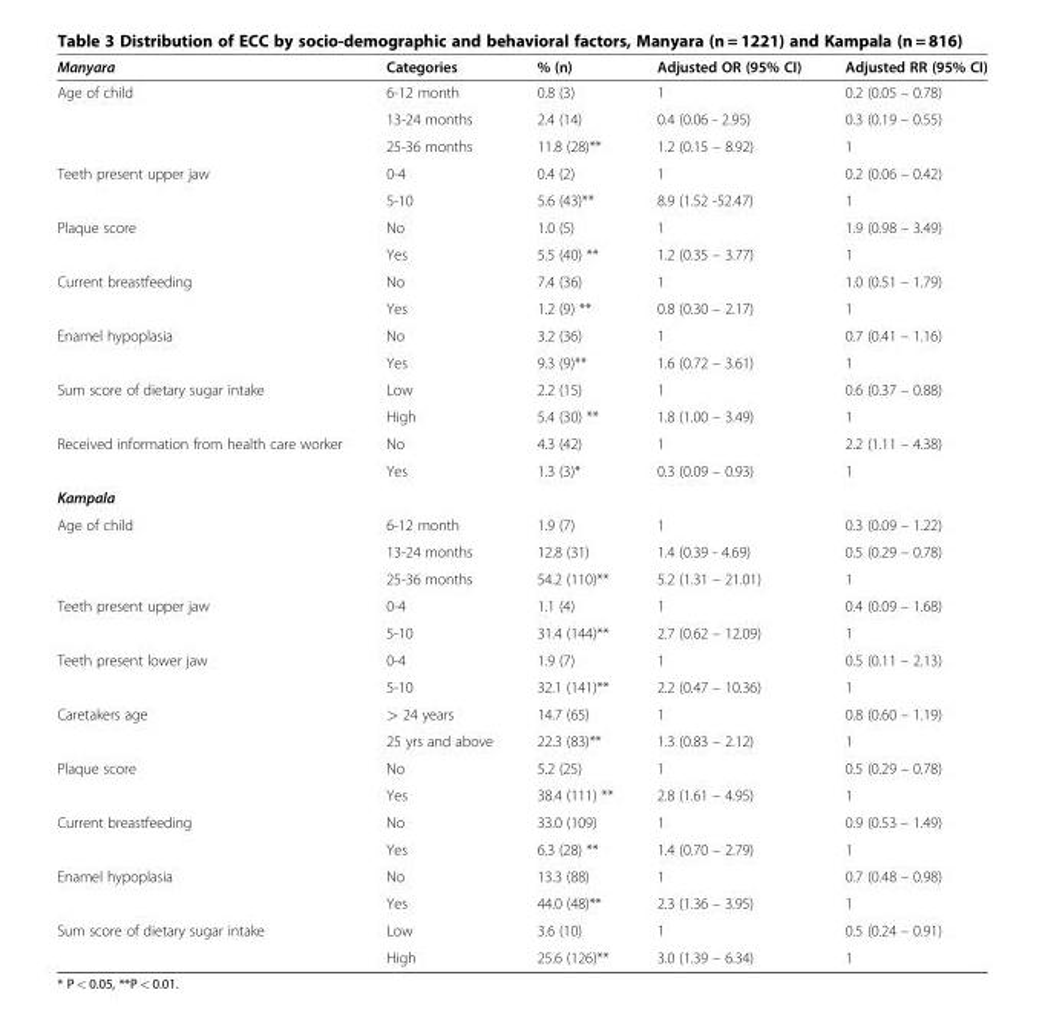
<table><thead><tr><td>Manyara</td><td>Categories</td><td>% (n)</td><td>Adjusted OR (95% CI)</td><td>Adjusted RR (95% CI)</td></tr></thead><tbody><tr><td rowspan="3">Age of child</td><td>6-12 month</td><td>0.8 (3)</td><td>1</td><td>0.2 (0.05 – 0.78)</td></tr><tr><td>13-24 months</td><td>2.4 (14)</td><td>0.4 (0.06 - 2.95)</td><td>0.3 (0.19 – 0.55)</td></tr><tr><td>25-36 months</td><td>11.8 (28)**</td><td>1.2 (0.15 – 8.92)</td><td>1</td></tr><tr><td rowspan="2">Teeth present upper jaw</td><td>0-4</td><td>0.4 (2)</td><td>1</td><td>0.2 (0.06 – 0.42)</td></tr><tr><td>5-10</td><td>5.6 (43)**</td><td>8.9 (1.52 -52.47)</td><td>1</td></tr><tr><td rowspan="2">Plaque score</td><td>No</td><td>1.0 (5)</td><td>1</td><td>1.9 (0.98 – 3.49)</td></tr><tr><td>Yes</td><td>5.5 (40) **</td><td>1.2 (0.35 – 3.77)</td><td>1</td></tr><tr><td rowspan="2">Current breastfeeding</td><td>No</td><td>7.4 (36)</td><td>1</td><td>1.0 (0.51 – 1.79)</td></tr><tr><td>Yes</td><td>1.2 (9) **</td><td>0.8 (0.30 – 2.17)</td><td>1</td></tr><tr><td rowspan="2">Enamel hypoplasia</td><td>No</td><td>3.2 (36)</td><td>1</td><td>0.7 (0.41 – 1.16)</td></tr><tr><td>Yes</td><td>9.3 (9)**</td><td>1.6 (0.72 – 3.61)</td><td>1</td></tr><tr><td rowspan="2">Sum score of dietary sugar intake</td><td>Low</td><td>2.2 (15)</td><td>1</td><td>0.6 (0.37 – 0.88)</td></tr><tr><td>High</td><td>5.4 (30) **</td><td>1.8 (1.00 – 3.49)</td><td>1</td></tr><tr><td rowspan="2">Received information from health care worker</td><td>No</td><td>4.3 (42)</td><td>1</td><td>2.2 (1.11 – 4.38)</td></tr><tr><td>Yes</td><td>1.3 (3)*</td><td>0.3 (0.09 – 0.93)</td><td>1</td></tr><tr><td colspan="5">Kampala</td></tr><tr><td rowspan="3">Age of child</td><td>6-12 month</td><td>1.9 (7)</td><td>1</td><td>0.3 (0.09 – 1.22)</td></tr><tr><td>13-24 months</td><td>12.8 (31)</td><td>1.4 (0.39 - 4.69)</td><td>0.5 (0.29 – 0.78)</td></tr><tr><td>25-36 months</td><td>54.2 (110)**</td><td>5.2 (1.31 – 21.01)</td><td>1</td></tr><tr><td rowspan="2">Teeth present upper jaw</td><td>0-4</td><td>1.1 (4)</td><td>1</td><td>0.4 (0.09 – 1.68)</td></tr><tr><td>5-10</td><td>31.4 (144)**</td><td>2.7 (0.62 – 12.09)</td><td>1</td></tr><tr><td rowspan="2">Teeth present lower jaw</td><td>0-4</td><td>1.9 (7)</td><td>1</td><td>0.5 (0.11 – 2.13)</td></tr><tr><td>5-10</td><td>32.1 (141)**</td><td>2.2 (0.47 – 10.36)</td><td>1</td></tr><tr><td rowspan="2">Caretakers age</td><td>&gt; 24 years</td><td>14.7 (65)</td><td>1</td><td>0.8 (0.60 – 1.19)</td></tr><tr><td>25 yrs and above</td><td>22.3 (83)**</td><td>1.3 (0.83 – 2.12)</td><td>1</td></tr><tr><td rowspan="2">Plaque score</td><td>No</td><td>5.2 (25)</td><td>1</td><td>0.5 (0.29 – 0.78)</td></tr><tr><td>Yes</td><td>38.4 (111) **</td><td>2.8 (1.61 – 4.95)</td><td>1</td></tr><tr><td rowspan="2">Current breastfeeding</td><td>No</td><td>33.0 (109)</td><td>1</td><td>0.9 (0.53 – 1.49)</td></tr><tr><td>Yes</td><td>6.3 (28) **</td><td>1.4 (0.70 – 2.79)</td><td>1</td></tr><tr><td rowspan="2">Enamel hypoplasia</td><td>No</td><td>13.3 (88)</td><td>1</td><td>0.7 (0.48 – 0.98)</td></tr><tr><td>Yes</td><td>44.0 (48)**</td><td>2.3 (1.36 – 3.95)</td><td>1</td></tr><tr><td rowspan="2">Sum score of dietary sugar intake</td><td>Low</td><td>3.6 (10)</td><td>1</td><td>0.5 (0.24 – 0.91)</td></tr><tr><td>High</td><td>25.6 (126)**</td><td>3.0 (1.39 – 6.34)</td><td>1</td></tr></tbody></table>